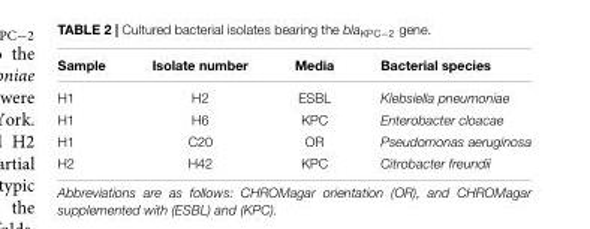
<table><thead><tr><td>Sample</td><td>Isolate number</td><td>Media</td><td>Bacterial species</td></tr></thead><tbody><tr><td>H1</td><td>H2</td><td>ESBL</td><td>Klebsiella pneumoniae</td></tr><tr><td>H1</td><td>H6</td><td>KPC</td><td>Enterobacter cloacae</td></tr><tr><td>H1</td><td>C20</td><td>OR</td><td>Pseudomonas aeruginosa</td></tr><tr><td>H2</td><td>H42</td><td>KPC</td><td>Citrobacter freundii</td></tr></tbody></table>